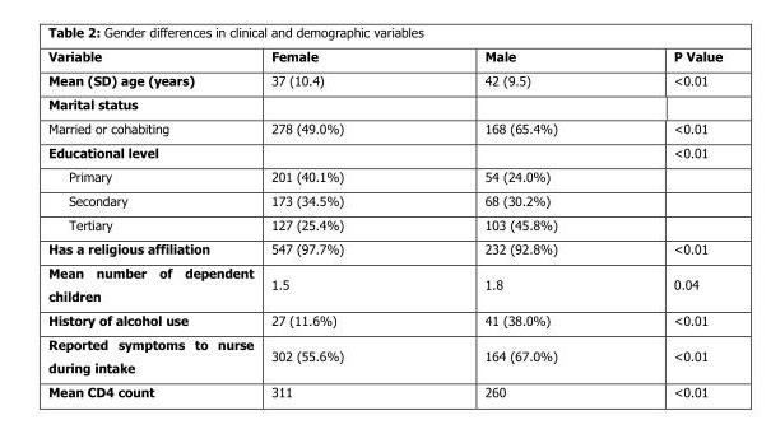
<table><thead><tr><td>Variable</td><td>Female</td><td>Male</td><td>P Value</td></tr></thead><tbody><tr><td>Mean (SD) age (years)</td><td>37 (10.4)</td><td>42 (9.5)</td><td>&lt;0.01</td></tr><tr><td colspan="4">Marital status</td></tr><tr><td>Married or cohabiting</td><td>278 (49.0%)</td><td>168 (65.4%)</td><td>&lt;0.01</td></tr><tr><td>Educational level</td><td></td><td></td><td>&lt;0.01</td></tr><tr><td>Primary</td><td>201 (40.1%)</td><td>54 (24.0%)</td><td></td></tr><tr><td>Secondary</td><td>173 (34.5%)</td><td>68 (30.2%)</td><td></td></tr><tr><td>Tertiary</td><td>127 (25.4%)</td><td>103 (45.8%)</td><td></td></tr><tr><td>Has a religious affiliation</td><td>547 (97.7%)</td><td>232 (92.8%)</td><td>&lt;0.01</td></tr><tr><td>Mean number of dependent children</td><td>1.5</td><td>1.8</td><td>0.04</td></tr><tr><td>History of alcohol use</td><td>27 (11.6%)</td><td>41 (38.0%)</td><td>&lt;0.01</td></tr><tr><td>Reported symptoms to nurse during intake</td><td>302 (55.6%)</td><td>164 (67.0%)</td><td>&lt;0.01</td></tr><tr><td>Mean CD4 count</td><td>311</td><td>260</td><td>&lt;0.01</td></tr></tbody></table>